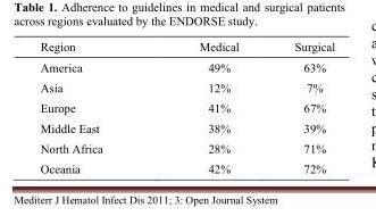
<table><thead><tr><td>Region</td><td>Medical</td><td>Surgical</td></tr></thead><tbody><tr><td>America</td><td>49%</td><td>63%</td></tr><tr><td>Asia</td><td>12%</td><td>7%</td></tr><tr><td>Europe</td><td>41%</td><td>67%</td></tr><tr><td>Middle East</td><td>38%</td><td>39%</td></tr><tr><td>North Africa</td><td>28%</td><td>71%</td></tr><tr><td>Oceania</td><td>42%</td><td>72%</td></tr></tbody></table>